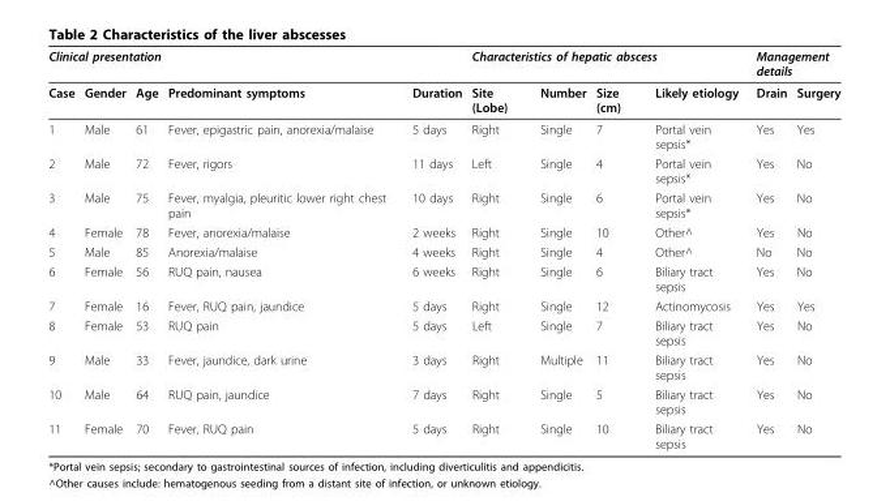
<table><thead><tr><td colspan="5">Clinical presentation</td><td colspan="4">Characteristics of hepatic abscess</td><td colspan="2">Management details</td></tr><tr><td>Case</td><td>Gender</td><td>Age</td><td>Predominant symptoms</td><td>Duration</td><td>Site (Lobe)</td><td>Number</td><td>Size (cm)</td><td>Likely etiology</td><td>Drain</td><td>Surgery</td></tr></thead><tbody><tr><td>1</td><td>Male</td><td>61</td><td>Fever, epigastric pain, anorexia/malaise</td><td>5 days</td><td>Right</td><td>Single</td><td>7</td><td>Portal vein sepsis*</td><td>Yes</td><td>Yes</td></tr><tr><td>2</td><td>Male</td><td>72</td><td>Fever, rigors</td><td>11 days</td><td>Left</td><td>Single</td><td>4</td><td>Portal vein sepsis*</td><td>Yes</td><td>No</td></tr><tr><td>3</td><td>Male</td><td>75</td><td>Fever, myalgia, pleuritic lower right chest pain</td><td>10 days</td><td>Right</td><td>Single</td><td>6</td><td>Portal vein sepsis*</td><td>Yes</td><td>No</td></tr><tr><td>4</td><td>Female</td><td>78</td><td>Fever, anorexia/malaise</td><td>2 weeks</td><td>Right</td><td>Single</td><td>10</td><td>Other^</td><td>Yes</td><td>No</td></tr><tr><td>5</td><td>Male</td><td>85</td><td>Anorexia/malaise</td><td>4 weeks</td><td>Right</td><td>Single</td><td>4</td><td>Other^</td><td>No</td><td>No</td></tr><tr><td>6</td><td>Female</td><td>56</td><td>RUQ pain, nausea</td><td>6 weeks</td><td>Right</td><td>Single</td><td>6</td><td>Biliary tract sepsis</td><td>Yes</td><td>No</td></tr><tr><td>7</td><td>Female</td><td>16</td><td>Fever, RUQ pain, jaundice</td><td>5 days</td><td>Right</td><td>Single</td><td>12</td><td>Actinomycosis</td><td>Yes</td><td>Yes</td></tr><tr><td>8</td><td>Female</td><td>53</td><td>RUQ pain</td><td>5 days</td><td>Left</td><td>Single</td><td>7</td><td>Biliary tract sepsis</td><td>Yes</td><td>No</td></tr><tr><td>9</td><td>Male</td><td>33</td><td>Fever, jaundice, dark urine</td><td>3 days</td><td>Right</td><td>Multiple</td><td>11</td><td>Biliary tract sepsis</td><td>Yes</td><td>No</td></tr><tr><td>10</td><td>Male</td><td>64</td><td>RUQ pain, jaundice</td><td>7 days</td><td>Right</td><td>Single</td><td>5</td><td>Biliary tract sepsis</td><td>Yes</td><td>No</td></tr><tr><td>11</td><td>Female</td><td>70</td><td>Fever, RUQ pain</td><td>5 days</td><td>Right</td><td>Single</td><td>10</td><td>Biliary tract sepsis</td><td>Yes</td><td>No</td></tr></tbody></table>